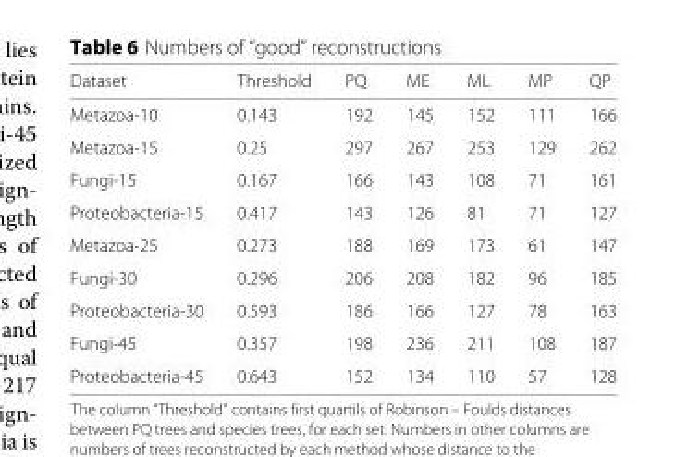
<table><thead><tr><td>Dataset</td><td>Threshold</td><td>PQ</td><td>ME</td><td>ML</td><td>MP</td><td>QP</td></tr></thead><tbody><tr><td>Metazoa-10</td><td>0.143</td><td>192</td><td>145</td><td>152</td><td>111</td><td>166</td></tr><tr><td>Metazoa-15</td><td>0.25</td><td>297</td><td>267</td><td>253</td><td>129</td><td>262</td></tr><tr><td>Fungi-15</td><td>0.167</td><td>166</td><td>143</td><td>108</td><td>71</td><td>161</td></tr><tr><td>Proteobacteria-15</td><td>0.417</td><td>143</td><td>126</td><td>81</td><td>71</td><td>127</td></tr><tr><td>Metazoa-25</td><td>0.273</td><td>188</td><td>169</td><td>173</td><td>61</td><td>147</td></tr><tr><td>Fungi-30</td><td>0.296</td><td>206</td><td>208</td><td>182</td><td>96</td><td>185</td></tr><tr><td>Proteobacteria-30</td><td>0.593</td><td>186</td><td>166</td><td>127</td><td>78</td><td>163</td></tr><tr><td>Fungi-45</td><td>0.357</td><td>198</td><td>236</td><td>211</td><td>108</td><td>187</td></tr><tr><td>Proteobacteria-45</td><td>0.643</td><td>152</td><td>134</td><td>110</td><td>57</td><td>128</td></tr></tbody></table>